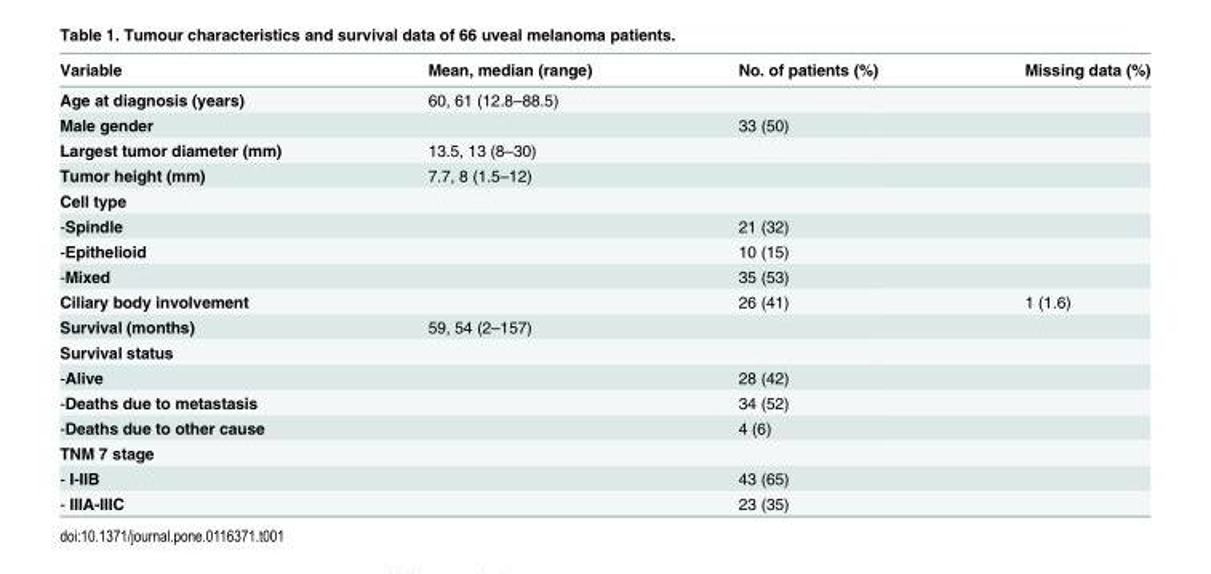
<table><thead><tr><td>Variable</td><td>Mean, median (range)</td><td>No. of patients (%)</td><td>Missing data (%)</td></tr></thead><tbody><tr><td>Age at diagnosis (years)</td><td>60, 61 (12.8–88.5)</td><td></td><td></td></tr><tr><td>Male gender</td><td></td><td>33 (50)</td><td></td></tr><tr><td>Largest tumor diameter (mm)</td><td>13.5, 13 (8–30)</td><td></td><td></td></tr><tr><td>Tumor height (mm)</td><td>7.7, 8 (1.5–12)</td><td></td><td></td></tr><tr><td colspan="4">Cell type</td></tr><tr><td>-Spindle</td><td></td><td>21 (32)</td><td></td></tr><tr><td>-Epithelioid</td><td></td><td>10 (15)</td><td></td></tr><tr><td>-Mixed</td><td></td><td>35 (53)</td><td></td></tr><tr><td>Ciliary body involvement</td><td></td><td>26 (41)</td><td>1 (1.6)</td></tr><tr><td>Survival (months)</td><td>59, 54 (2–157)</td><td></td><td></td></tr><tr><td colspan="4">Survival status</td></tr><tr><td>-Alive</td><td></td><td>28 (42)</td><td></td></tr><tr><td>-Deaths due to metastasis</td><td></td><td>34 (52)</td><td></td></tr><tr><td>-Deaths due to other cause</td><td></td><td>4 (6)</td><td></td></tr><tr><td colspan="4">TNM 7 stage</td></tr><tr><td>- I-IIB</td><td></td><td>43 (65)</td><td></td></tr><tr><td>- IIIA-IIIC</td><td></td><td>23 (35)</td><td></td></tr></tbody></table>